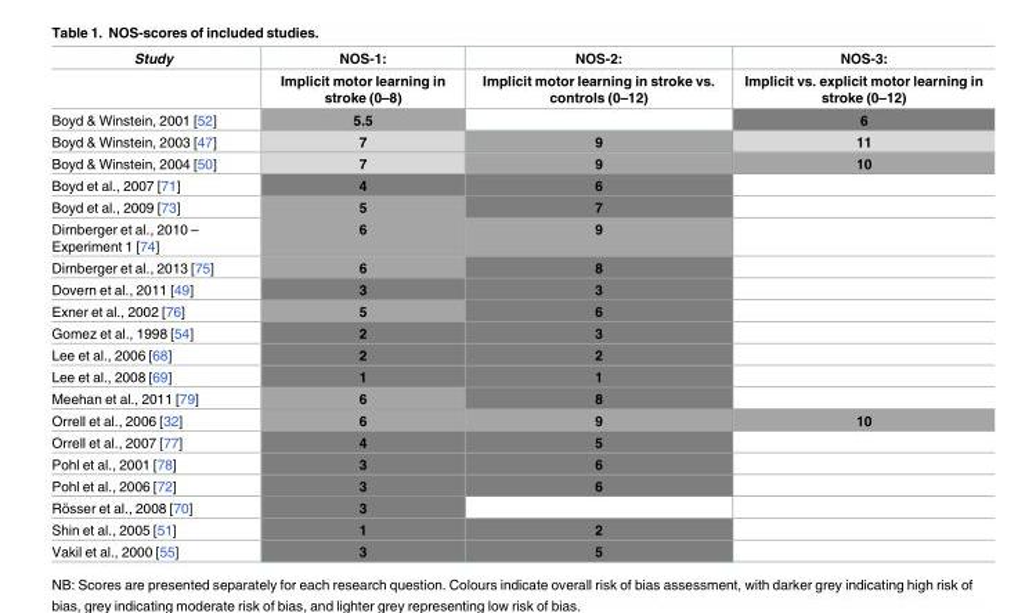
<table><thead><tr><td rowspan="2">Study</td><td rowspan="2">NOS-1: Implicit motor learning in stroke (0–8)</td><td rowspan="2">NOS-2: Implicit motor learning in stroke vs. controls (0–12)</td><td rowspan="2">NOS-3: Implicit vs. explicit motor learning in stroke (0–12)</td></tr><tr></tr></thead><tbody><tr><td>Boyd &amp; Winstein, 2001 [52]</td><td>5.5</td><td></td><td>6</td></tr><tr><td>Boyd &amp; Winstein, 2003 [47]</td><td>7</td><td>9</td><td>11</td></tr><tr><td>Boyd &amp; Winstein, 2004 [50]</td><td>7</td><td>9</td><td>10</td></tr><tr><td>Boyd et al., 2007 [71]</td><td>4</td><td>6</td><td></td></tr><tr><td>Boyd et al., 2009 [73]</td><td>5</td><td>7</td><td></td></tr><tr><td>Dirnberger et al., 2010 – Experiment 1 [74]</td><td>6</td><td>9</td><td></td></tr><tr><td>Dirnberger et al., 2013 [75]</td><td>6</td><td>8</td><td></td></tr><tr><td>Dovern et al., 2011 [49]</td><td>3</td><td>3</td><td></td></tr><tr><td>Exner et al., 2002 [76]</td><td>5</td><td>6</td><td></td></tr><tr><td>Gomez et al., 1998 [54]</td><td>2</td><td>3</td><td></td></tr><tr><td>Lee et al., 2006 [68]</td><td>2</td><td>2</td><td></td></tr><tr><td>Lee et al., 2008 [69]</td><td>1</td><td>1</td><td></td></tr><tr><td>Meehan et al., 2011 [79]</td><td>6</td><td>8</td><td></td></tr><tr><td>Orrell et al., 2006 [32]</td><td>6</td><td>9</td><td>10</td></tr><tr><td>Orrell et al., 2007 [77]</td><td>4</td><td>5</td><td></td></tr><tr><td>Pohl et al., 2001 [78]</td><td>3</td><td>6</td><td></td></tr><tr><td>Pohl et al., 2006 [72]</td><td>3</td><td>6</td><td></td></tr><tr><td>Ro¨sser et al., 2008 [70]</td><td>3</td><td></td><td></td></tr><tr><td>Shin et al., 2005 [51]</td><td>1</td><td>2</td><td></td></tr><tr><td>Vakil et al., 2000 [55]</td><td>3</td><td>5</td><td></td></tr></tbody></table>